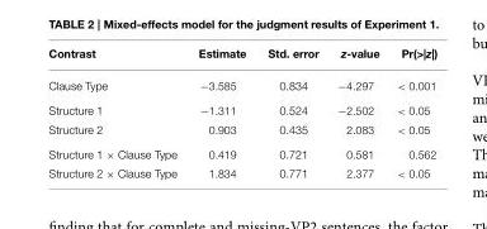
<table><thead><tr><td>Contrast</td><td>Estimate</td><td>Std. error</td><td>z-value</td><td>Pr(&gt;|z|)</td></tr></thead><tbody><tr><td>Clause Type</td><td>−3.585</td><td>0.834</td><td>−4.297</td><td>&lt; 0.001</td></tr><tr><td>Structure 1</td><td>−1.311</td><td>0.524</td><td>−2.502</td><td>&lt; 0.05</td></tr><tr><td>Structure 2</td><td>0.903</td><td>0.435</td><td>2.083</td><td>&lt; 0.05</td></tr><tr><td>Structure 1 × Clause Type</td><td>0.419</td><td>0.721</td><td>0.581</td><td>0.562</td></tr><tr><td>Structure 2 × Clause Type</td><td>1.834</td><td>0.771</td><td>2.377</td><td>&lt; 0.05</td></tr></tbody></table>